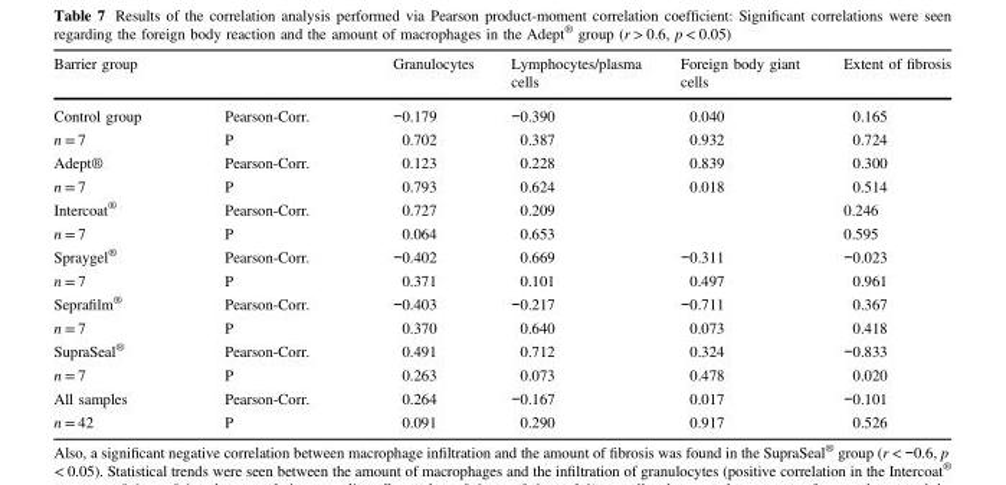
<table><thead><tr><td colspan="2">Barrier group</td><td rowspan="2">Granulocytes −0.179</td><td rowspan="2">Lymphocytes/plasma cells −0.390</td><td rowspan="2">Foreign body giant cells 0.040</td><td rowspan="2">Extent of fibrosis 0.165</td></tr><tr><td>Control group</td><td>Pearson-Corr.</td></tr></thead><tbody><tr><td>n = 7</td><td>P</td><td>0.702</td><td>0.387</td><td>0.932</td><td>0.724</td></tr><tr><td>Adept®</td><td>Pearson-Corr.</td><td>0.123</td><td>0.228</td><td>0.839</td><td>0.300</td></tr><tr><td>n = 7</td><td>P</td><td>0.793</td><td>0.624</td><td>0.018</td><td>0.514</td></tr><tr><td>Intercoat<sup>®</sup></td><td>Pearson-Corr.</td><td>0.727</td><td>0.209</td><td></td><td>0.246</td></tr><tr><td>n = 7</td><td>P</td><td>0.064</td><td>0.653</td><td></td><td>0.595</td></tr><tr><td>Spraygel<sup>®</sup></td><td>Pearson-Corr.</td><td>−0.402</td><td>0.669</td><td>−0.311</td><td>−0.023</td></tr><tr><td>n = 7</td><td>P</td><td>0.371</td><td>0.101</td><td>0.497</td><td>0.961</td></tr><tr><td>Seprafilm<sup>®</sup></td><td>Pearson-Corr.</td><td>−0.403</td><td>−0.217</td><td>−0.711</td><td>0.367</td></tr><tr><td>n = 7</td><td>P</td><td>0.370</td><td>0.640</td><td>0.073</td><td>0.418</td></tr><tr><td>SupraSeal<sup>®</sup></td><td>Pearson-Corr.</td><td>0.491</td><td>0.712</td><td>0.324</td><td>−0.833</td></tr><tr><td>n = 7</td><td>P</td><td>0.263</td><td>0.073</td><td>0.478</td><td>0.020</td></tr><tr><td>All samples</td><td>Pearson-Corr.</td><td>0.264</td><td>−0.167</td><td>0.017</td><td>−0.101</td></tr><tr><td>n = 42</td><td>P</td><td>0.091</td><td>0.290</td><td>0.917</td><td>0.526</td></tr></tbody></table>